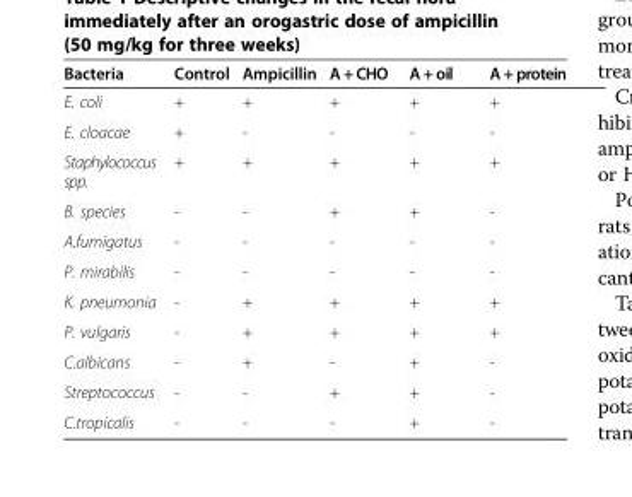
<table><thead><tr><td>Bacteria</td><td>Control</td><td>Ampicillin</td><td>A + CHO</td><td>A + oil</td><td>A + protein</td></tr></thead><tbody><tr><td>E. coli</td><td>+</td><td>+</td><td>+</td><td>+</td><td>+</td></tr><tr><td>E. cloacae</td><td>+</td><td>-</td><td>-</td><td>-</td><td>-</td></tr><tr><td>Staphylococcus spp.</td><td>+</td><td>+</td><td>+</td><td>+</td><td>+</td></tr><tr><td>B. species</td><td>-</td><td>-</td><td>+</td><td>+</td><td>-</td></tr><tr><td>A.fumigatus</td><td>-</td><td>-</td><td>-</td><td>-</td><td>-</td></tr><tr><td>P. mirabilis</td><td>-</td><td>-</td><td>-</td><td>-</td><td>-</td></tr><tr><td>K. pneumonia</td><td>-</td><td>+</td><td>+</td><td>+</td><td>+</td></tr><tr><td>P. vulgaris</td><td>-</td><td>+</td><td>+</td><td>+</td><td>+</td></tr><tr><td>C.albicans</td><td>-</td><td>+</td><td>-</td><td>+</td><td>-</td></tr><tr><td>Streptococcus</td><td>-</td><td>-</td><td>+</td><td>+</td><td>-</td></tr><tr><td>C.tropicalis</td><td>-</td><td>-</td><td>-</td><td>+</td><td>-</td></tr></tbody></table>